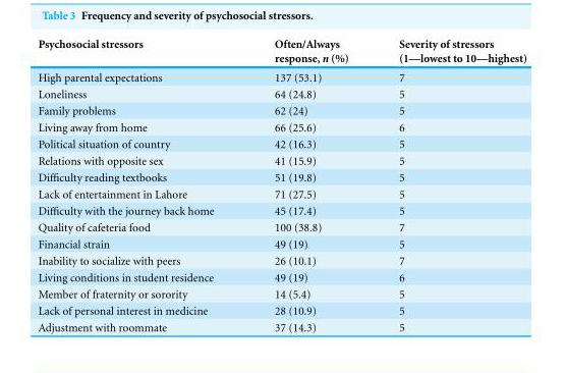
<table><thead><tr><td>Psychosocial stressors</td><td>Often/Always response, n (%)</td><td>Severity of stressors (1—lowest to 10—highest)</td></tr></thead><tbody><tr><td>High parental expectations</td><td>137 (53.1)</td><td>7</td></tr><tr><td>Loneliness</td><td>64 (24.8)</td><td>5</td></tr><tr><td>Family problems</td><td>62 (24)</td><td>5</td></tr><tr><td>Living away from home</td><td>66 (25.6)</td><td>6</td></tr><tr><td>Political situation of country</td><td>42 (16.3)</td><td>5</td></tr><tr><td>Relations with opposite sex</td><td>41 (15.9)</td><td>5</td></tr><tr><td>Difficulty reading textbooks</td><td>51 (19.8)</td><td>5</td></tr><tr><td>Lack of entertainment in Lahore</td><td>71 (27.5)</td><td>5</td></tr><tr><td>Difficulty with the journey back home</td><td>45 (17.4)</td><td>5</td></tr><tr><td>Quality of cafeteria food</td><td>100 (38.8)</td><td>7</td></tr><tr><td>Financial strain</td><td>49 (19)</td><td>5</td></tr><tr><td>Inability to socialize with peers</td><td>26 (10.1)</td><td>7</td></tr><tr><td>Living conditions in student residence</td><td>49 (19)</td><td>6</td></tr><tr><td>Member of fraternity or sorority</td><td>14 (5.4)</td><td>5</td></tr><tr><td>Lack of personal interest in medicine</td><td>28 (10.9)</td><td>5</td></tr><tr><td>Adjustment with roommate</td><td>37 (14.3)</td><td>5</td></tr></tbody></table>